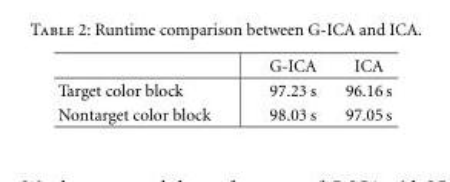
<table><thead><tr><td></td><td>G-ICA</td><td>ICA</td></tr></thead><tbody><tr><td>Target color block</td><td>97.23 s</td><td>96.16 s</td></tr><tr><td>Nontarget color block</td><td>98.03 s</td><td>97.05 s</td></tr></tbody></table>